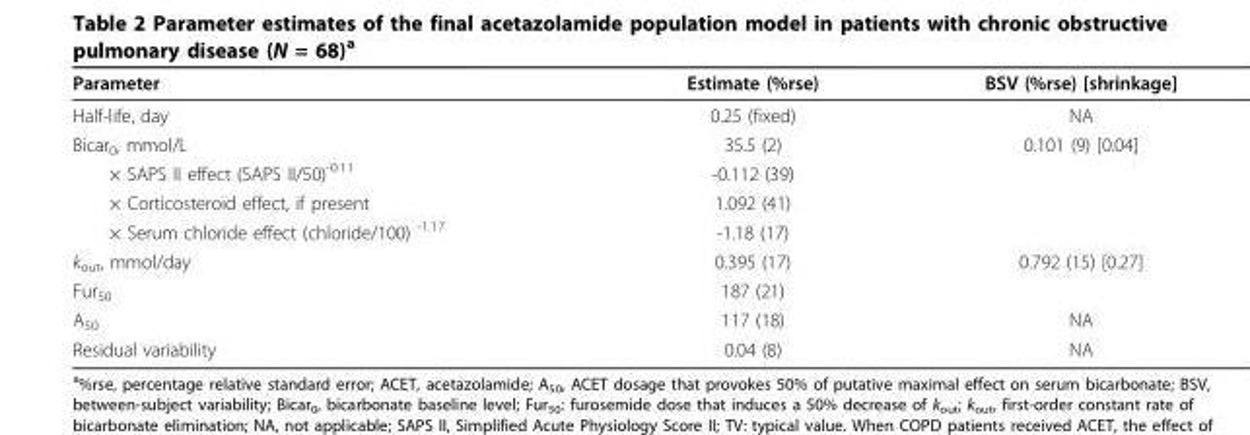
<table><thead><tr><td>Parameter</td><td>Estimate (%rse)</td><td>BSV (%rse) [shrinkage]</td></tr></thead><tbody><tr><td>Half-life, day</td><td>0.25 (fixed)</td><td>NA</td></tr><tr><td>Bicar<sub>0</sub>, mmol/L</td><td>35.5 (2)</td><td>0.101 (9) [0.04]</td></tr><tr><td>× SAPS II effect (SAPS II/50)<sup>-0.11</sup></td><td>-0.112 (39)</td><td></td></tr><tr><td>× Corticosteroid effect, if present</td><td>1.092 (41)</td><td></td></tr><tr><td>× Serum chloride effect (chloride/100) <sup>-1.17</sup></td><td>-1.18 (17)</td><td></td></tr><tr><td>k<sub>out</sub>, mmol/day</td><td>0.395 (17)</td><td>0.792 (15) [0.27]</td></tr><tr><td>Fur<sub>50</sub></td><td>187 (21)</td><td></td></tr><tr><td>A<sub>50</sub></td><td>117 (18)</td><td>NA</td></tr><tr><td>Residual variability</td><td>0.04 (8)</td><td>NA</td></tr></tbody></table>